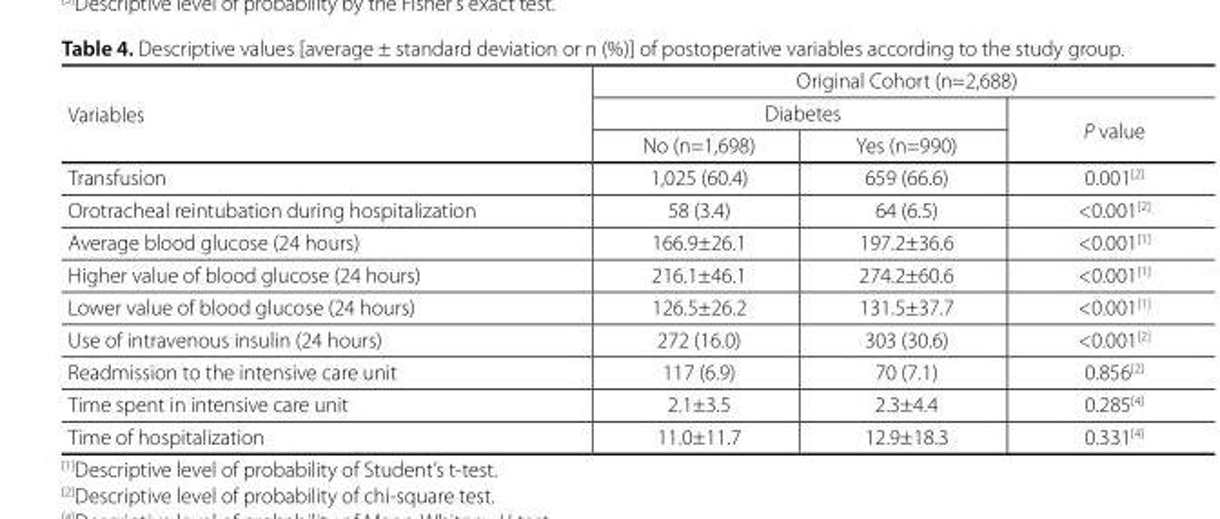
<table><thead><tr><td rowspan="3">Variables</td><td colspan="3">Original Cohort (n=2,688)</td></tr><tr><td colspan="2">Diabetes</td><td rowspan="2">P value</td></tr><tr><td>No (n=1,698)</td><td>Yes (n=990)</td></tr></thead><tbody><tr><td>Transfusion</td><td>1,025 (60.4)</td><td>659 (66.6)</td><td>0.001<sup>[2]</sup></td></tr><tr><td>Orotracheal reintubation during hospitalization</td><td>58 (3.4)</td><td>64 (6.5)</td><td>&lt;0.001<sup>[2]</sup></td></tr><tr><td>Average blood glucose (24 hours)</td><td>166.9±26.1</td><td>197.2±36.6</td><td>&lt;0.001<sup>[1]</sup></td></tr><tr><td>Higher value of blood glucose (24 hours)</td><td>216.1±46.1</td><td>274.2±60.6</td><td>&lt;0.001<sup>[1]</sup></td></tr><tr><td>Lower value of blood glucose (24 hours)</td><td>126.5±26.2</td><td>131.5±37.7</td><td>&lt;0.001<sup>[1]</sup></td></tr><tr><td>Use of intravenous insulin (24 hours)</td><td>272 (16.0)</td><td>303 (30.6)</td><td>&lt;0.001<sup>[2]</sup></td></tr><tr><td>Readmission to the intensive care unit</td><td>117 (6.9)</td><td>70 (7.1)</td><td>0.856<sup>[2]</sup></td></tr><tr><td>Time spent in intensive care unit</td><td>2.1±3.5</td><td>2.3±4.4</td><td>0.285<sup>[4]</sup></td></tr><tr><td>Time of hospitalization</td><td>11.0±11.7</td><td>12.9±18.3</td><td>0.331<sup>[4]</sup></td></tr></tbody></table>